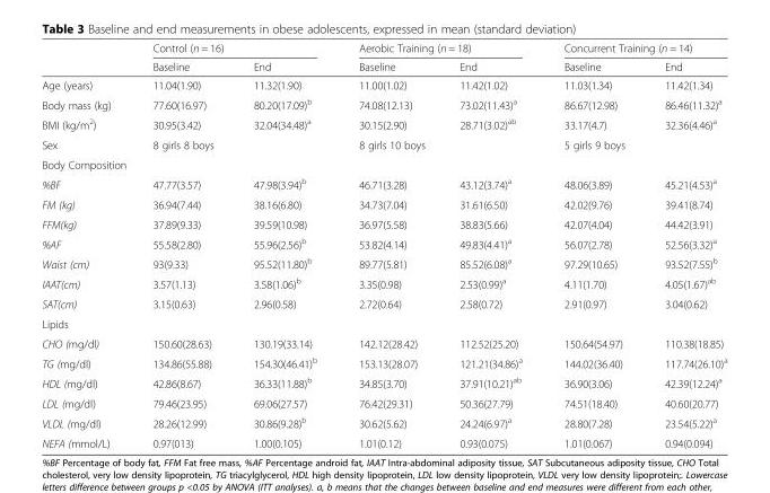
<table><thead><tr><td rowspan="2"></td><td colspan="2">Control (n = 16)</td><td colspan="2">Aerobic Training (n = 18)</td><td colspan="2">Concurrent Training (n = 14)</td></tr><tr><td>Baseline</td><td>End</td><td>Baseline</td><td>End</td><td>Baseline</td><td>End</td></tr></thead><tbody><tr><td>Age (years)</td><td>11.04(1.90)</td><td>11.32(1.90)</td><td>11.00(1.02)</td><td>11.42(1.02)</td><td>11.03(1.34)</td><td>11.42(1.34)</td></tr><tr><td>Body mass (kg)</td><td>77.60(16.97)</td><td>80.20(17.09)<sup>b</sup></td><td>74.08(12.13)</td><td>73.02(11.43)<sup>a</sup></td><td>86.67(12.98)</td><td>86.46(11.32)<sup>a</sup></td></tr><tr><td>BMI (kg/m<sup>2</sup>)</td><td>30.95(3.42)</td><td>32.04(34.48)<sup>a</sup></td><td>30.15(2.90)</td><td>28.71(3.02)<sup>ab</sup></td><td>33.17(4.7)</td><td>32.36(4.46)<sup>a</sup></td></tr><tr><td>Sex</td><td colspan="2">8 girls 8 boys</td><td colspan="2">8 girls 10 boys</td><td colspan="2">5 girls 9 boys</td></tr><tr><td colspan="7">Body Composition</td></tr><tr><td>%BF</td><td>47.77(3.57)</td><td>47.98(3.94)<sup>b</sup></td><td>46.71(3.28)</td><td>43.12(3.74)<sup>a</sup></td><td>48.06(3.89)</td><td>45.21(4.53)<sup>a</sup></td></tr><tr><td>FM (kg)</td><td>36.94(7.44)</td><td>38.16(6.80)</td><td>34.73(7.04)</td><td>31.61(6.50)</td><td>42.02(9.76)</td><td>39.41(8.74)</td></tr><tr><td>FFM(kg)</td><td>37.89(9.33)</td><td>39.59(10.98)</td><td>36.97(5.58)</td><td>38.83(5.66)</td><td>42.07(4.04)</td><td>44.42(3.91)</td></tr><tr><td>%AF</td><td>55.58(2.80)</td><td>55.96(2.56)<sup>b</sup></td><td>53.82(4.14)</td><td>49.83(4.41)<sup>a</sup></td><td>56.07(2.78)</td><td>52.56(3.32)<sup>a</sup></td></tr><tr><td>Waist (cm)</td><td>93(9.33)</td><td>95.52(11.80)<sup>b</sup></td><td>89.77(5.81)</td><td>85.52(6.08)<sup>a</sup></td><td>97.29(10.65)</td><td>93.52(7.55)<sup>b</sup></td></tr><tr><td>IAAT(cm)</td><td>3.57(1.13)</td><td>3.58(1.06)<sup>b</sup></td><td>3.35(0.98)</td><td>2.53(0.99)<sup>a</sup></td><td>4.11(1.70)</td><td>4.05(1.67)<sup>ab</sup></td></tr><tr><td>SAT(cm)</td><td>3.15(0.63)</td><td>2.96(0.58)</td><td>2.72(0.64)</td><td>2.58(0.72)</td><td>2.91(0.97)</td><td>3.04(0.62)</td></tr><tr><td colspan="7">Lipids</td></tr><tr><td>CHO (mg/dl)</td><td>150.60(28.63)</td><td>130.19(33.14)</td><td>142.12(28.42)</td><td>112.52(25.20)</td><td>150.64(54.97)</td><td>110.38(18.85)</td></tr><tr><td>TG (mg/dl)</td><td>134.86(55.88)</td><td>154.30(46.41)<sup>b</sup></td><td>153.13(28.07)</td><td>121.21(34.86)<sup>a</sup></td><td>144.02(36.40)</td><td>117.74(26.10)<sup>a</sup></td></tr><tr><td>HDL (mg/dl)</td><td>42.86(8.67)</td><td>36.33(11.88)<sup>b</sup></td><td>34.85(3.70)</td><td>37.91(10.21)<sup>ab</sup></td><td>36.90(3.06)</td><td>42.39(12.24)<sup>a</sup></td></tr><tr><td>LDL (mg/dl)</td><td>79.46(23.95)</td><td>69.06(27.57)</td><td>76.42(29.31)</td><td>50.36(27.79)</td><td>74.51(18.40)</td><td>40.60(20.77)</td></tr><tr><td>VLDL (mg/dl)</td><td>28.26(12.99)</td><td>30.86(9.28)<sup>b</sup></td><td>30.62(5.62)</td><td>24.24(6.97)<sup>a</sup></td><td>28.80(7.28)</td><td>23.54(5.22)<sup>a</sup></td></tr><tr><td>NEFA (mmol/L)</td><td>0.97(013)</td><td>1.00(0.105)</td><td>1.01(0.12)</td><td>0.93(0.075)</td><td>1.01(0.067)</td><td>0.94(0.094)</td></tr></tbody></table>